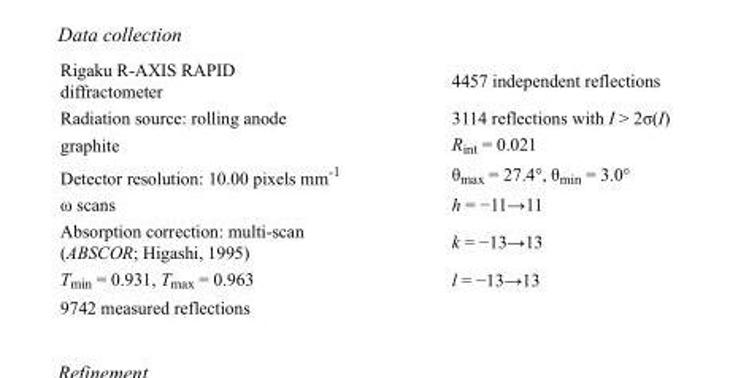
<table><tbody><tr><td>Rigaku R-AXIS RAPID diffractometer</td><td>4457 independent reflections</td></tr><tr><td>Radiation source: rolling anode</td><td>3114 reflections with I &gt; 2σ(I)</td></tr><tr><td>graphite</td><td>R<sub>int</sub> = 0.021</td></tr><tr><td>Detector resolution: 10.00 pixels mm<sup>-1</sup></td><td>θ<sub>max</sub> = 27.4°, θ<sub>min</sub> = 3.0°</td></tr><tr><td>ω scans</td><td>h = −11→11</td></tr><tr><td>Absorption correction: multi-scan (ABSCOR; Higashi, 1995)</td><td>k = −13→13</td></tr><tr><td>T<sub>min</sub> = 0.931, T<sub>max</sub> = 0.963</td><td>l = −13→13</td></tr><tr><td>9742 measured reflections</td><td></td></tr></tbody></table>